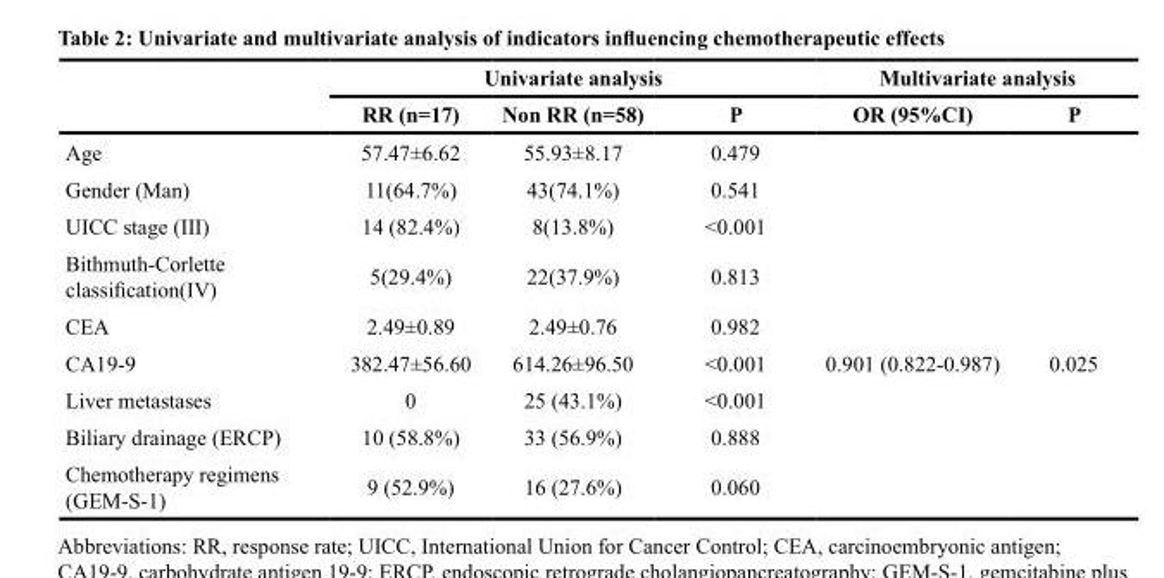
<table><thead><tr><td rowspan="2"></td><td colspan="3">Univariate analysis</td><td colspan="2">Multivariate analysis</td></tr><tr><td>RR (n=17)</td><td>Non RR (n=58)</td><td>P</td><td>OR (95%CI)</td><td>P</td></tr></thead><tbody><tr><td>Age</td><td>57.47±6.62</td><td>55.93±8.17</td><td>0.479</td><td></td><td></td></tr><tr><td>Gender (Man)</td><td>11(64.7%)</td><td>43(74.1%)</td><td>0.541</td><td></td><td></td></tr><tr><td>UICC stage (III)</td><td>14 (82.4%)</td><td>8(13.8%)</td><td>&lt;0.001</td><td></td><td></td></tr><tr><td>Bithmuth-Corlette classification(IV)</td><td>5(29.4%)</td><td>22(37.9%)</td><td>0.813</td><td></td><td></td></tr><tr><td>CEA</td><td>2.49±0.89</td><td>2.49±0.76</td><td>0.982</td><td></td><td></td></tr><tr><td>CA19-9</td><td>382.47±56.60</td><td>614.26±96.50</td><td>&lt;0.001</td><td>0.901 (0.822-0.987)</td><td>0.025</td></tr><tr><td>Liver metastases</td><td>0</td><td>25 (43.1%)</td><td>&lt;0.001</td><td></td><td></td></tr><tr><td>Biliary drainage (ERCP)</td><td>10 (58.8%)</td><td>33 (56.9%)</td><td>0.888</td><td></td><td></td></tr><tr><td>Chemotherapy regimens (GEM-S-1)</td><td>9 (52.9%)</td><td>16 (27.6%)</td><td>0.060</td><td></td><td></td></tr></tbody></table>